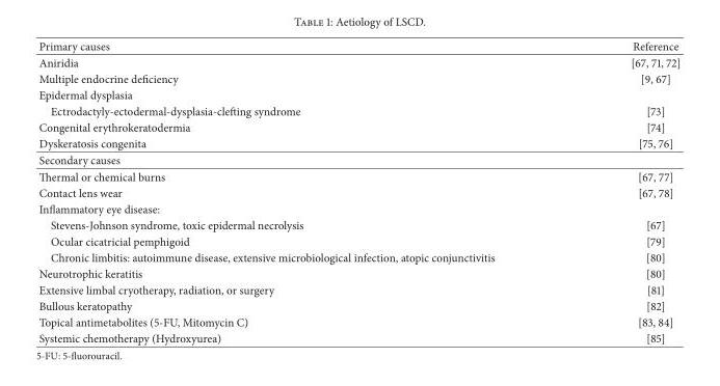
<table><thead><tr><td>Primary causes</td><td>Reference</td></tr></thead><tbody><tr><td>Aniridia</td><td>[67, 71, 72]</td></tr><tr><td>Multiple endocrine deficiency</td><td>[9, 67]</td></tr><tr><td colspan="2">Epidermal dysplasia</td></tr><tr><td>Ectrodactyly-ectodermal-dysplasia-clefting syndrome</td><td>[73]</td></tr><tr><td>Congenital erythrokeratodermia</td><td>[74]</td></tr><tr><td>Dyskeratosis congenita</td><td>[75, 76]</td></tr><tr><td colspan="2">Secondary causes</td></tr><tr><td>Thermal or chemical burns</td><td>[67, 77]</td></tr><tr><td>Contact lens wear</td><td>[67, 78]</td></tr><tr><td colspan="2">Inflammatory eye disease:</td></tr><tr><td>Stevens-Johnson syndrome, toxic epidermal necrolysis</td><td>[67]</td></tr><tr><td>Ocular cicatricial pemphigoid</td><td>[79]</td></tr><tr><td>Chronic limbitis: autoimmune disease, extensive microbiological infection, atopic conjunctivitis</td><td>[80]</td></tr><tr><td>Neurotrophic keratitis</td><td>[80]</td></tr><tr><td>Extensive limbal cryotherapy, radiation, or surgery</td><td>[81]</td></tr><tr><td>Bullous keratopathy</td><td>[82]</td></tr><tr><td>Topical antimetabolites (5-FU, Mitomycin C)</td><td>[83, 84]</td></tr><tr><td>Systemic chemotherapy (Hydroxyurea)</td><td>[85]</td></tr></tbody></table>